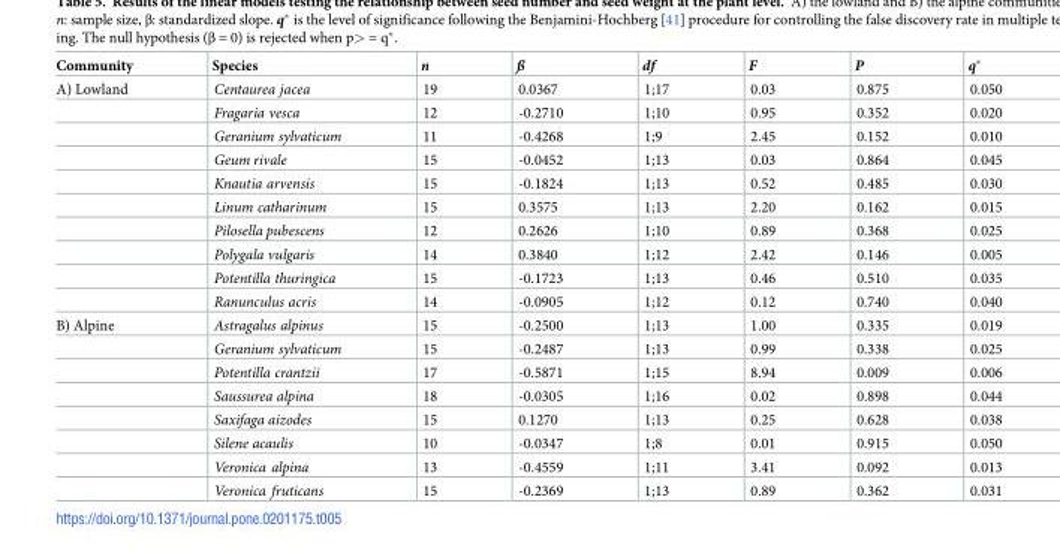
<table><thead><tr><td>Community</td><td>Species</td><td>n</td><td>ß</td><td>df</td><td>F</td><td>P</td><td>q*</td></tr></thead><tbody><tr><td rowspan="10">A) Lowland</td><td>Centaurea jacea</td><td>19</td><td>0.0367</td><td>1;17</td><td>0.03</td><td>0.875</td><td>0.050</td></tr><tr><td>Fragaria vesca</td><td>12</td><td>-0.2710</td><td>1;10</td><td>0.95</td><td>0.352</td><td>0.020</td></tr><tr><td>Geranium sylvaticum</td><td>11</td><td>-0.4268</td><td>1;9</td><td>2.45</td><td>0.152</td><td>0.010</td></tr><tr><td>Geum rivale</td><td>15</td><td>-0.0452</td><td>1;13</td><td>0.03</td><td>0.864</td><td>0.045</td></tr><tr><td>Knautia arvensis</td><td>15</td><td>-0.1824</td><td>1;13</td><td>0.52</td><td>0.485</td><td>0.030</td></tr><tr><td>Linum catharinum</td><td>15</td><td>0.3575</td><td>1;13</td><td>2.20</td><td>0.162</td><td>0.015</td></tr><tr><td>Pilosella pubescens</td><td>12</td><td>0.2626</td><td>1;10</td><td>0.89</td><td>0.368</td><td>0.025</td></tr><tr><td>Polygala vulgaris</td><td>14</td><td>0.3840</td><td>1;12</td><td>2.42</td><td>0.146</td><td>0.005</td></tr><tr><td>Potentilla thuringica</td><td>15</td><td>-0.1723</td><td>1;13</td><td>0.46</td><td>0.510</td><td>0.035</td></tr><tr><td>Ranunculus acris</td><td>14</td><td>-0.0905</td><td>1;12</td><td>0.12</td><td>0.740</td><td>0.040</td></tr><tr><td rowspan="8">B) Alpine</td><td>Astragalus alpinus</td><td>15</td><td>-0.2500</td><td>1;13</td><td>1.00</td><td>0.335</td><td>0.019</td></tr><tr><td>Geranium sylvaticum</td><td>15</td><td>-0.2487</td><td>1;13</td><td>0.99</td><td>0.338</td><td>0.025</td></tr><tr><td>Potentilla crantzii</td><td>17</td><td>-0.5871</td><td>1;15</td><td>8.94</td><td>0.009</td><td>0.006</td></tr><tr><td>Saussurea alpina</td><td>18</td><td>-0.0305</td><td>1;16</td><td>0.02</td><td>0.898</td><td>0.044</td></tr><tr><td>Saxifaga aizodes</td><td>15</td><td>0.1270</td><td>1;13</td><td>0.25</td><td>0.628</td><td>0.038</td></tr><tr><td>Silene acaulis</td><td>10</td><td>-0.0347</td><td>1;8</td><td>0.01</td><td>0.915</td><td>0.050</td></tr><tr><td>Veronica alpina</td><td>13</td><td>-0.4559</td><td>1;11</td><td>3.41</td><td>0.092</td><td>0.013</td></tr><tr><td>Veronica fruticans</td><td>15</td><td>-0.2369</td><td>1;13</td><td>0.89</td><td>0.362</td><td>0.031</td></tr></tbody></table>